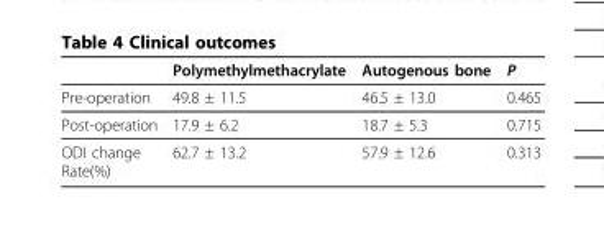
<table><thead><tr><td></td><td>Polymethylmethacrylate</td><td>Autogenous bone</td><td>P</td></tr></thead><tbody><tr><td>Pre-operation</td><td>49.8 ± 11.5</td><td>46.5 ± 13.0</td><td>0.465</td></tr><tr><td>Post-operation</td><td>17.9 ± 6.2</td><td>18.7 ± 5.3</td><td>0.715</td></tr><tr><td>ODI change Rate(%)</td><td>62.7 ± 13.2</td><td>57.9 ± 12.6</td><td>0.313</td></tr></tbody></table>